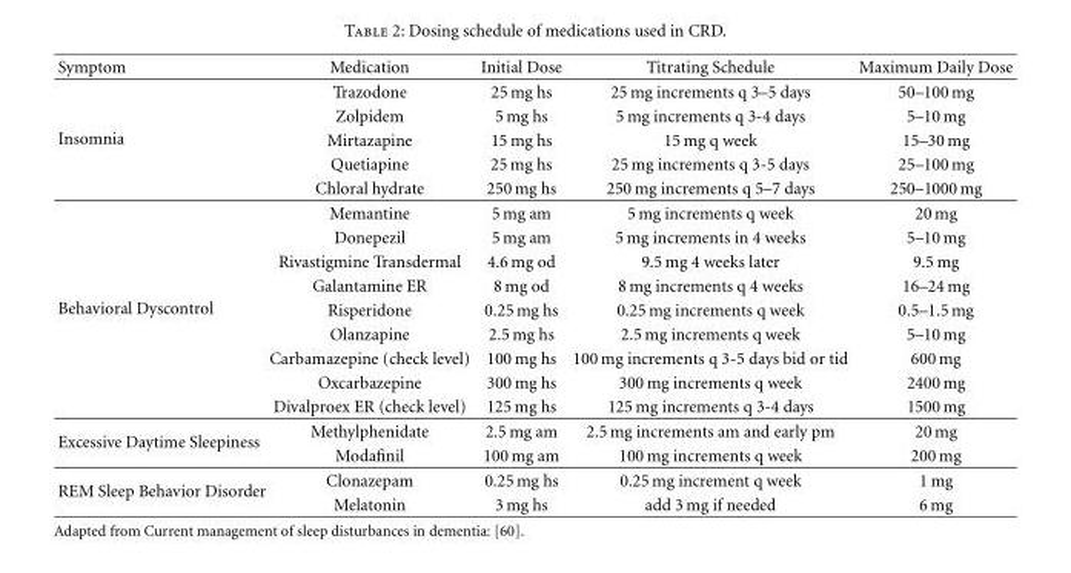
<table><thead><tr><td>Symptom</td><td>Medication</td><td>Initial Dose</td><td>Titrating Schedule</td><td>Maximum Daily Dose</td></tr></thead><tbody><tr><td rowspan="5">Insomnia</td><td>Trazodone</td><td>25 mg hs</td><td>25 mg increments q 3–5 days</td><td>50–100 mg</td></tr><tr><td>Zolpidem</td><td>5 mg hs</td><td>5 mg increments q 3-4 days</td><td>5–10 mg</td></tr><tr><td>Mirtazapine</td><td>15 mg hs</td><td>15 mg q week</td><td>15–30 mg</td></tr><tr><td>Quetiapine</td><td>25 mg hs</td><td>25 mg increments q 3-5 days</td><td>25–100 mg</td></tr><tr><td>Chloral hydrate</td><td>250 mg hs</td><td>250 mg increments q 5–7 days</td><td>250–1000 mg</td></tr><tr><td rowspan="9">Behavioral Dyscontrol</td><td>Memantine</td><td>5 mg am</td><td>5 mg increments q week</td><td>20 mg</td></tr><tr><td>Donepezil</td><td>5 mg am</td><td>5 mg increments in 4 weeks</td><td>5–10 mg</td></tr><tr><td>Rivastigmine Transdermal</td><td>4.6 mg od</td><td>9.5 mg 4 weeks later</td><td>9.5 mg</td></tr><tr><td>Galantamine ER</td><td>8 mg od</td><td>8 mg increments q 4 weeks</td><td>16–24 mg</td></tr><tr><td>Risperidone</td><td>0.25 mg hs</td><td>0.25 mg increments q week</td><td>0.5–1.5 mg</td></tr><tr><td>Olanzapine</td><td>2.5 mg hs</td><td>2.5 mg increments q week</td><td>5–10 mg</td></tr><tr><td>Carbamazepine (check level)</td><td>100 mg hs</td><td>100 mg increments q 3-5 days bid or tid</td><td>600 mg</td></tr><tr><td>Oxcarbazepine</td><td>300 mg hs</td><td>300 mg increments q week</td><td>2400 mg</td></tr><tr><td>Divalproex ER (check level)</td><td>125 mg hs</td><td>125 mg increments q 3-4 days</td><td>1500 mg</td></tr><tr><td rowspan="2">Excessive Daytime Sleepiness</td><td>Methylphenidate</td><td>2.5 mg am</td><td>2.5 mg increments am and early pm</td><td>20 mg</td></tr><tr><td>Modafinil</td><td>100 mg am</td><td>100 mg increments q week</td><td>200 mg</td></tr><tr><td rowspan="2">REM Sleep Behavior Disorder</td><td>Clonazepam</td><td>0.25 mg hs</td><td>0.25 mg increment q week</td><td>1 mg</td></tr><tr><td>Melatonin</td><td>3 mg hs</td><td>add 3 mg if needed</td><td>6 mg</td></tr></tbody></table>